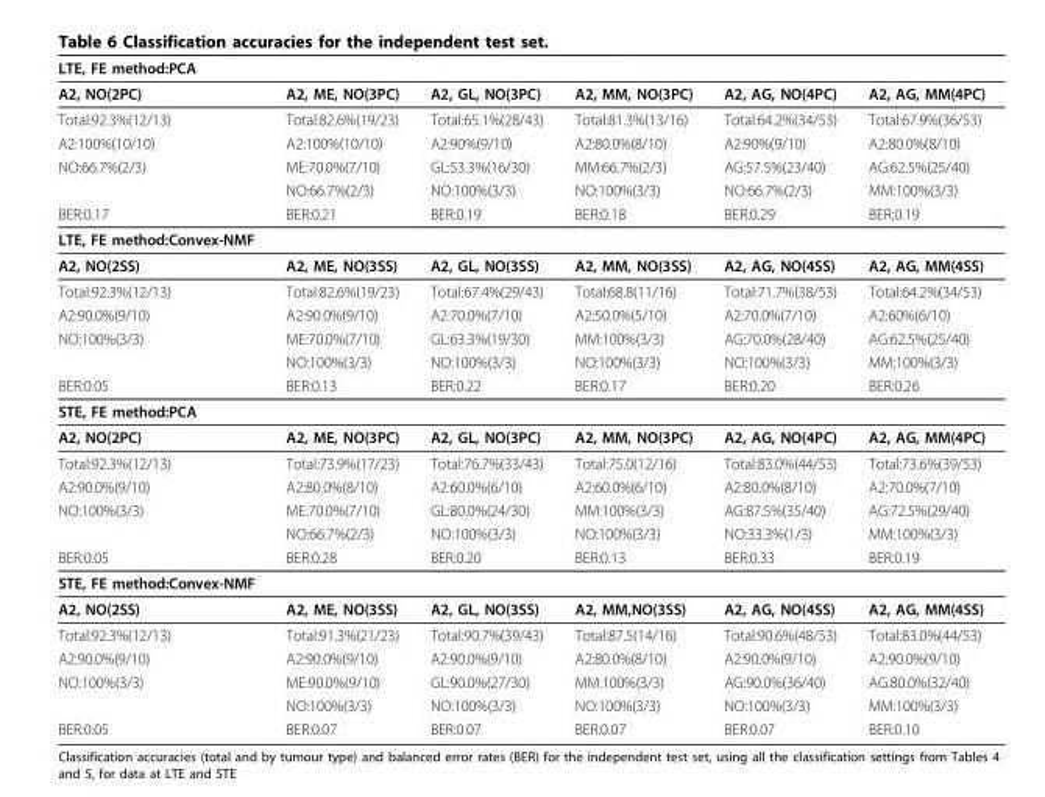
<table><thead><tr><td>LTE, FE method:PCA</td><td></td><td></td><td></td><td></td><td></td></tr></thead><tbody><tr><td>A2, NO(2PC)</td><td>A2, ME, NO(3PC)</td><td>A2, GL, NO(3PC)</td><td>A2, MM, NO(3PC)</td><td>A2, AG, NO(4PC)</td><td>A2, AG, MM(4PC)</td></tr><tr><td>Total:92.3%(12/13)</td><td>Total:82.6%(19/23)</td><td>Total:65.1%(28/43)</td><td>Total:81.3%(13/16)</td><td>Total:64.2%(34/53)</td><td>Total:67.9%(36/53)</td></tr><tr><td>A2:100%(10/10)</td><td>A2:100%(10/10)</td><td>A2:90%(9/10)</td><td>A2:80.0%(8/10)</td><td>A2:90%(9/10)</td><td>A2:80.0%(8/10)</td></tr><tr><td rowspan="2">NO:66.7%(2/3)</td><td>ME:70.0%(7/10)</td><td>GL:53.3%(16/30)</td><td>MM:66.7%(2/3)</td><td>AG:57.5%(23/40)</td><td>AG:62.5%(25/40)</td></tr><tr><td>NO:66.7%(2/3)</td><td>NO:100%(3/3)</td><td>NO:100%(3/3)</td><td>NO:66.7%(2/3)</td><td>MM:100%(3/3)</td></tr><tr><td>BER:0.17</td><td>BER:0.21</td><td>BER:0.19</td><td>BER:0.18</td><td>BER:0.29</td><td>BER:0.19</td></tr><tr><td colspan="6">LTE, FE method:Convex-NMF</td></tr><tr><td>A2, NO(2SS)</td><td>A2, ME, NO(3SS)</td><td>A2, GL, NO(3SS)</td><td>A2, MM, NO(3SS)</td><td>A2, AG, NO(4SS)</td><td>A2, AG, MM(4SS)</td></tr><tr><td>Total:92.3%(12/13)</td><td>Total:82.6%(19/23)</td><td>Total:67.4%(29/43)</td><td>Total:68.8(11/16)</td><td>Total:71.7%(38/53)</td><td>Total:64.2%(34/53)</td></tr><tr><td>A2:90.0%(9/10)</td><td>A2:90.0%(9/10)</td><td>A2:70.0%(7/10)</td><td>A2:50.0%(5/10)</td><td>A2:70.0%(7/10)</td><td>A2:60%(6/10)</td></tr><tr><td rowspan="2">NO:100%(3/3)</td><td>ME:70.0%(7/10)</td><td>GL:63.3%(19/30)</td><td>MM:100%(3/3)</td><td>AG:70.0%(28/40)</td><td>AG:62.5%(25/40)</td></tr><tr><td>NO:100%(3/3)</td><td>NO:100%(3/3)</td><td>NO:100%(3/3)</td><td>NO:100%(3/3)</td><td>MM:100%(3/3)</td></tr><tr><td>BER:0.05</td><td>BER:0.13</td><td>BER:0.22</td><td>BER:0.17</td><td>BER:0.20</td><td>BER:0.26</td></tr><tr><td colspan="6">STE, FE method:PCA</td></tr><tr><td>A2, NO(2PC)</td><td>A2, ME, NO(3PC)</td><td>A2, GL, NO(3PC)</td><td>A2, MM, NO(3PC)</td><td>A2, AG, NO(4PC)</td><td>A2, AG, MM(4PC)</td></tr><tr><td>Total:92.3%(12/13)</td><td>Total:73.9%(17/23)</td><td>Total:76.7%(33/43)</td><td>Total:75.0(12/16)</td><td>Total:83.0%(44/53)</td><td>Total:73.6%(39/53)</td></tr><tr><td>A2:90.0%(9/10)</td><td>A2:80.0%(8/10)</td><td>A2:60.0%(6/10)</td><td>A2:60.0%(6/10)</td><td>A2:80.0%(8/10)</td><td>A2:70.0%(7/10)</td></tr><tr><td rowspan="2">NO:100%(3/3)</td><td>ME:70.0%(7/10)</td><td>GL:80.0%(24/30)</td><td>MM:100%(3/3)</td><td>AG:87.5%(35/40)</td><td>AG:72.5%(29/40)</td></tr><tr><td>NO:66.7%(2/3)</td><td>NO:100%(3/3)</td><td>NO:100%(3/3)</td><td>NO:33.3%(1/3)</td><td>MM:100%(3/3)</td></tr><tr><td>BER:0.05</td><td>BER:0.28</td><td>BER:0.20</td><td>BER:0.13</td><td>BER:0.33</td><td>BER:0.19</td></tr><tr><td colspan="6">STE, FE method:Convex-NMF</td></tr><tr><td>A2, NO(2SS)</td><td>A2, ME, NO(3SS)</td><td>A2, GL, NO(3SS)</td><td>A2, MM,NO(3SS)</td><td>A2, AG, NO(4SS)</td><td>A2, AG, MM(4SS)</td></tr><tr><td>Total:92.3%(12/13)</td><td>Total:91.3%(21/23)</td><td>Total:90.7%(39/43)</td><td>Total:87.5(14/16)</td><td>Total:90.6%(48/53)</td><td>Total:83.0%(44/53)</td></tr><tr><td>A2:90.0%(9/10)</td><td>A2:90.0%(9/10)</td><td>A2:90.0%(9/10)</td><td>A2:80.0%(8/10)</td><td>A2:90.0%(9/10)</td><td>A2:90.0%(9/10)</td></tr><tr><td rowspan="2">NO:100%(3/3)</td><td>ME:90.0%(9/10)</td><td>GL:90.0%(27/30)</td><td>MM:100%(3/3)</td><td>AG:90.0%(36/40)</td><td>AG:80.0%(32/40)</td></tr><tr><td>NO:100%(3/3)</td><td>NO:100%(3/3)</td><td>NO:100%(3/3)</td><td>NO:100%(3/3)</td><td>MM:100%(3/3)</td></tr><tr><td>BER:0.05</td><td>BER:0.07</td><td>BER:0.07</td><td>BER:0.07</td><td>BER:0.07</td><td>BER:0.10</td></tr></tbody></table>